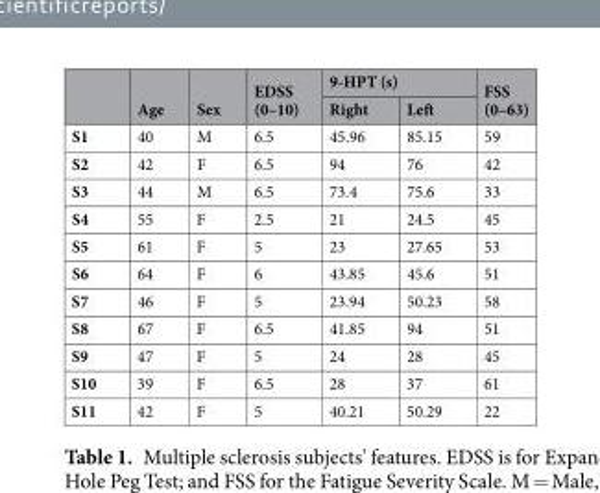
<table><thead><tr><td rowspan="2"></td><td rowspan="2">Age</td><td rowspan="2">Sex</td><td rowspan="2">EDSS (0–10)</td><td colspan="2">9-HPT (s)</td><td rowspan="2">FSS (0–63)</td></tr><tr><td>Right</td><td>Left</td></tr></thead><tbody><tr><td>S1</td><td>40</td><td>M</td><td>6.5</td><td>45.96</td><td>85.15</td><td>59</td></tr><tr><td>S2</td><td>42</td><td>F</td><td>6.5</td><td>94</td><td>76</td><td>42</td></tr><tr><td>S3</td><td>44</td><td>M</td><td>6.5</td><td>73.4</td><td>75.6</td><td>33</td></tr><tr><td>S4</td><td>55</td><td>F</td><td>2.5</td><td>21</td><td>24.5</td><td>45</td></tr><tr><td>S5</td><td>61</td><td>F</td><td>5</td><td>23</td><td>27.65</td><td>53</td></tr><tr><td>S6</td><td>64</td><td>F</td><td>6</td><td>43.85</td><td>45.6</td><td>51</td></tr><tr><td>S7</td><td>46</td><td>F</td><td>5</td><td>23.94</td><td>50.23</td><td>58</td></tr><tr><td>S8</td><td>67</td><td>F</td><td>6.5</td><td>41.85</td><td>94</td><td>51</td></tr><tr><td>S9</td><td>47</td><td>F</td><td>5</td><td>24</td><td>28</td><td>45</td></tr><tr><td>S10</td><td>39</td><td>F</td><td>6.5</td><td>28</td><td>37</td><td>61</td></tr><tr><td>S11</td><td>42</td><td>F</td><td>5</td><td>40.21</td><td>50.29</td><td>22</td></tr></tbody></table>